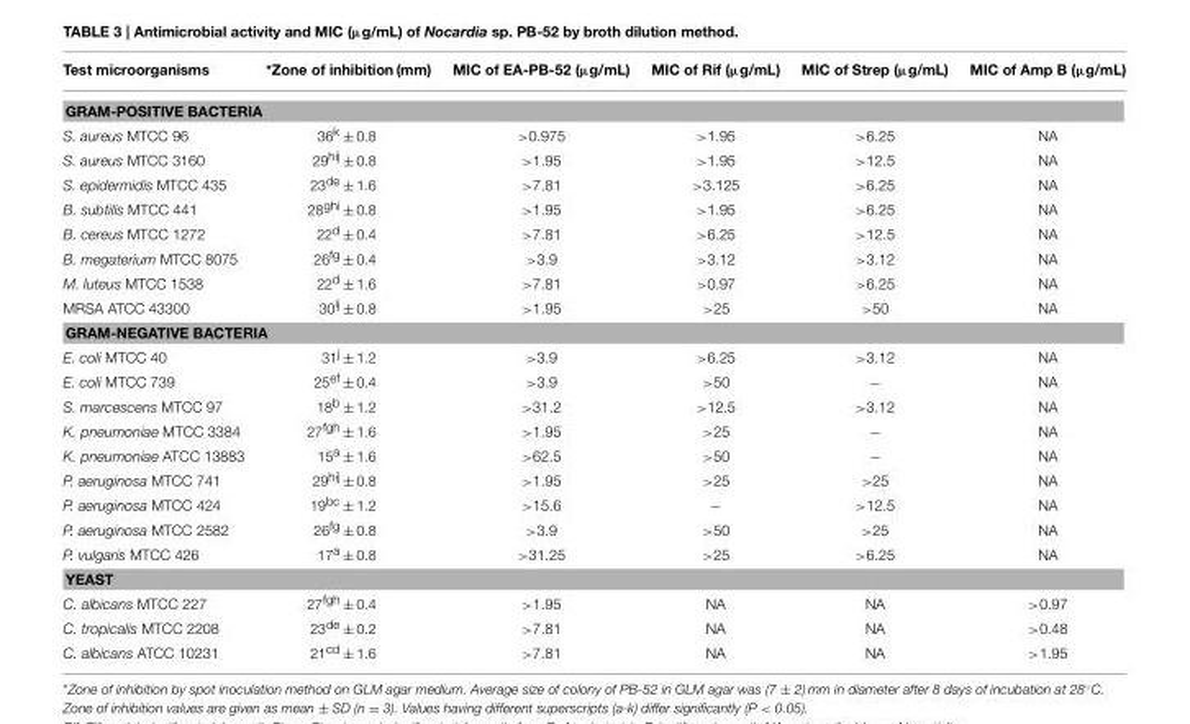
<table><thead><tr><td>Test microorganisms</td><td>*Zone of inhibition (mm)</td><td>MIC of EA-PB-52 (µg/mL)</td><td>MIC of Rif (µg/mL)</td><td>MIC of Strep (µg/mL)</td><td>MIC of Amp B (µg/mL)</td></tr></thead><tbody><tr><td colspan="6">GRAM-POSITIVE BACTERIA</td></tr><tr><td>S. aureus MTCC 96</td><td>36<sup>k</sup> ± 0.8</td><td>&gt;0.975</td><td>&gt;1.95</td><td>&gt;6.25</td><td>NA</td></tr><tr><td>S. aureus MTCC 3160</td><td>29<sup>hij</sup> ± 0.8</td><td>&gt;1.95</td><td>&gt;1.95</td><td>&gt;12.5</td><td>NA</td></tr><tr><td>S. epidermidis MTCC 435</td><td>23<sup>de</sup> ± 1.6</td><td>&gt;7.81</td><td>&gt;3.125</td><td>&gt;6.25</td><td>NA</td></tr><tr><td>B. subtilis MTCC 441</td><td>28<sup>ghi</sup> ± 0.8</td><td>&gt;1.95</td><td>&gt;1.95</td><td>&gt;6.25</td><td>NA</td></tr><tr><td>B. cereus MTCC 1272</td><td>22<sup>d</sup> ± 0.4</td><td>&gt;7.81</td><td>&gt;6.25</td><td>&gt;12.5</td><td>NA</td></tr><tr><td>B. megaterium MTCC 8075</td><td>26<sup>fg</sup> ± 0.4</td><td>&gt;3.9</td><td>&gt;3.12</td><td>&gt;3.12</td><td>NA</td></tr><tr><td>M. luteus MTCC 1538</td><td>22<sup>d</sup> ± 1.6</td><td>&gt;7.81</td><td>&gt;0.97</td><td>&gt;6.25</td><td>NA</td></tr><tr><td>MRSA ATCC 43300</td><td>30<sup>ij</sup> ± 0.8</td><td>&gt;1.95</td><td>&gt;25</td><td>&gt;50</td><td>NA</td></tr><tr><td colspan="6">GRAM-NEGATIVE BACTERIA</td></tr><tr><td>E. coli MTCC 40</td><td>31<sup>j</sup> ± 1.2</td><td>&gt;3.9</td><td>&gt;6.25</td><td>&gt;3.12</td><td>NA</td></tr><tr><td>E. coli MTCC 739</td><td>25<sup>ef</sup> ± 0.4</td><td>&gt;3.9</td><td>&gt;50</td><td>−</td><td>NA</td></tr><tr><td>S. marcescens MTCC 97</td><td>18<sup>b</sup> ± 1.2</td><td>&gt;31.2</td><td>&gt;12.5</td><td>&gt;3.12</td><td>NA</td></tr><tr><td>K. pneumoniae MTCC 3384</td><td>27<sup>fgh</sup> ± 1.6</td><td>&gt;1.95</td><td>&gt;25</td><td>−</td><td>NA</td></tr><tr><td>K. pneumoniae ATCC 13883</td><td>15<sup>a</sup> ± 1.6</td><td>&gt;62.5</td><td>&gt;50</td><td>−</td><td>NA</td></tr><tr><td>P. aeruginosa MTCC 741</td><td>29<sup>hij</sup> ± 0.8</td><td>&gt;1.95</td><td>&gt;25</td><td>&gt;25</td><td>NA</td></tr><tr><td>P. aeruginosa MTCC 424</td><td>19<sup>bc</sup> ± 1.2</td><td>&gt;15.6</td><td>−</td><td>&gt;12.5</td><td>NA</td></tr><tr><td>P. aeruginosa MTCC 2582</td><td>26<sup>fg</sup> ± 0.8</td><td>&gt;3.9</td><td>&gt;50</td><td>&gt;25</td><td>NA</td></tr><tr><td>P. vulgaris MTCC 426</td><td>17<sup>a</sup> ± 0.8</td><td>&gt;31.25</td><td>&gt;25</td><td>&gt;6.25</td><td>NA</td></tr><tr><td colspan="6">YEAST</td></tr><tr><td>C. albicans MTCC 227</td><td>27<sup>fgh</sup> ± 0.4</td><td>&gt;1.95</td><td>NA</td><td>NA</td><td>&gt;0.97</td></tr><tr><td>C. tropicalis MTCC 2208</td><td>23<sup>de</sup> ± 0.2</td><td>&gt;7.81</td><td>NA</td><td>NA</td><td>&gt;0.48</td></tr><tr><td>C. albicans ATCC 10231</td><td>21<sup>cd</sup> ± 1.6</td><td>&gt;7.81</td><td>NA</td><td>NA</td><td>&gt;1.95</td></tr></tbody></table>